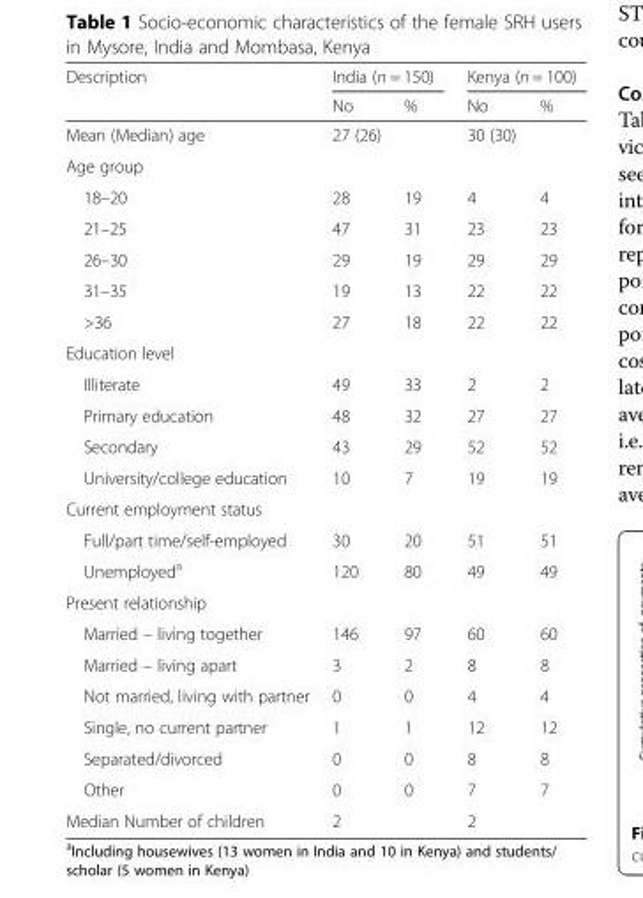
<table><thead><tr><td rowspan="2">Description</td><td colspan="2">India (n = 150)</td><td colspan="2">Kenya (n = 100)</td></tr><tr><td>No</td><td>%</td><td>No</td><td>%</td></tr></thead><tbody><tr><td>Mean (Median) age</td><td colspan="2">27 (26)</td><td colspan="2">30 (30)</td></tr><tr><td colspan="5">Age group</td></tr><tr><td>18–20</td><td>28</td><td>19</td><td>4</td><td>4</td></tr><tr><td>21–25</td><td>47</td><td>31</td><td>23</td><td>23</td></tr><tr><td>26–30</td><td>29</td><td>19</td><td>29</td><td>29</td></tr><tr><td>31–35</td><td>19</td><td>13</td><td>22</td><td>22</td></tr><tr><td>&gt;36</td><td>27</td><td>18</td><td>22</td><td>22</td></tr><tr><td colspan="5">Education level</td></tr><tr><td>Illiterate</td><td>49</td><td>33</td><td>2</td><td>2</td></tr><tr><td>Primary education</td><td>48</td><td>32</td><td>27</td><td>27</td></tr><tr><td>Secondary</td><td>43</td><td>29</td><td>52</td><td>52</td></tr><tr><td>University/college education</td><td>10</td><td>7</td><td>19</td><td>19</td></tr><tr><td colspan="5">Current employment status</td></tr><tr><td>Full/part time/self-employed</td><td>30</td><td>20</td><td>51</td><td>51</td></tr><tr><td>Unemployed<sup>a</sup></td><td>120</td><td>80</td><td>49</td><td>49</td></tr><tr><td colspan="5">Present relationship</td></tr><tr><td>Married – living together</td><td>146</td><td>97</td><td>60</td><td>60</td></tr><tr><td>Married – living apart</td><td>3</td><td>2</td><td>8</td><td>8</td></tr><tr><td>Not married, living with partner</td><td>0</td><td>0</td><td>4</td><td>4</td></tr><tr><td>Single, no current partner</td><td>1</td><td>1</td><td>12</td><td>12</td></tr><tr><td>Separated/divorced</td><td>0</td><td>0</td><td>8</td><td>8</td></tr><tr><td>Other</td><td>0</td><td>0</td><td>7</td><td>7</td></tr><tr><td>Median Number of children</td><td colspan="2">2</td><td colspan="2">2</td></tr></tbody></table>